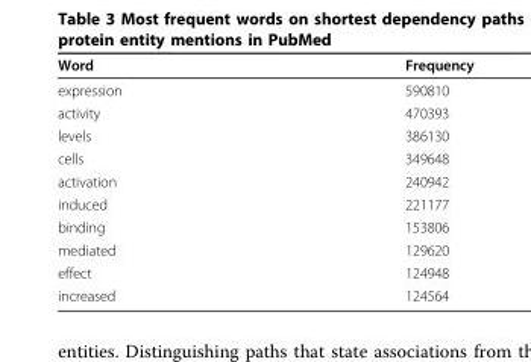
<table><thead><tr><td>Word</td><td>Frequency</td></tr></thead><tbody><tr><td>expression</td><td>590810</td></tr><tr><td>activity</td><td>470393</td></tr><tr><td>levels</td><td>386130</td></tr><tr><td>cells</td><td>349648</td></tr><tr><td>activation</td><td>240942</td></tr><tr><td>induced</td><td>221177</td></tr><tr><td>binding</td><td>153806</td></tr><tr><td>mediated</td><td>129620</td></tr><tr><td>effect</td><td>124948</td></tr><tr><td>increased</td><td>124564</td></tr></tbody></table>